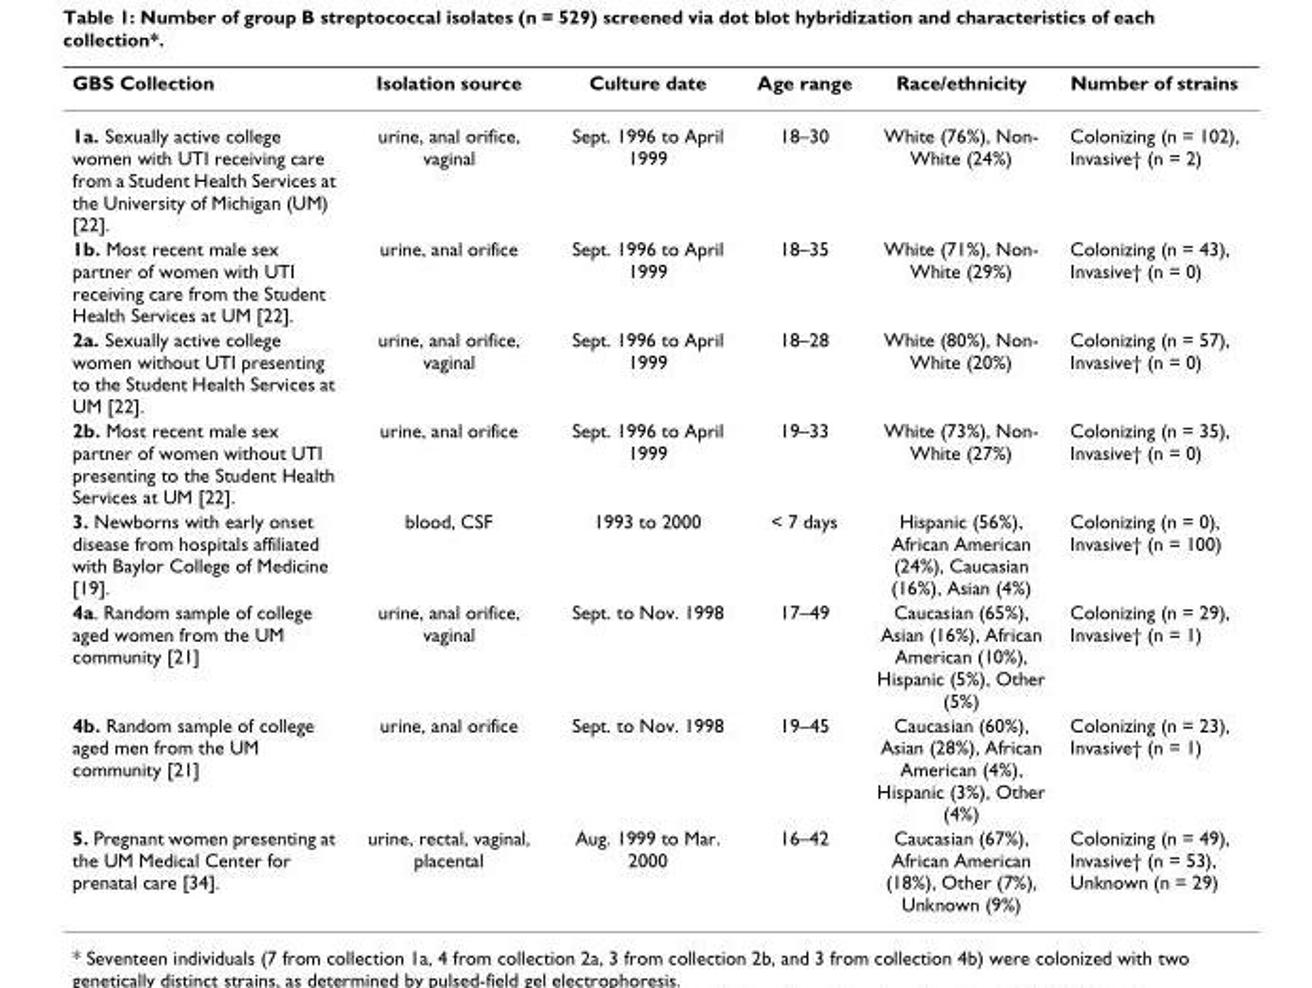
<table><thead><tr><td>GBS Collection</td><td>Isolation source</td><td>Culture date</td><td>Age range</td><td>Race/ethnicity</td><td>Number of strains</td></tr></thead><tbody><tr><td>1a. Sexually active college women with UTI receiving care from a Student Health Services at the University of Michigan (UM) [22].</td><td>urine, anal orifice, vaginal</td><td>Sept. 1996 to April 1999</td><td>18–30</td><td>White (76%), Non- White (24%)</td><td>Colonizing (n = 102), Invasive† (n = 2)</td></tr><tr><td>1b. Most recent male sex partner of women with UTI receiving care from the Student Health Services at UM [22].</td><td>urine, anal orifice</td><td>Sept. 1996 to April 1999</td><td>18–35</td><td>White (71%), Non- White (29%)</td><td>Colonizing (n = 43), Invasive† (n = 0)</td></tr><tr><td>2a. Sexually active college women without UTI presenting to the Student Health Services at UM [22].</td><td>urine, anal orifice, vaginal</td><td>Sept. 1996 to April 1999</td><td>18–28</td><td>White (80%), Non- White (20%)</td><td>Colonizing (n = 57), Invasive† (n = 0)</td></tr><tr><td>2b. Most recent male sex partner of women without UTI presenting to the Student Health Services at UM [22].</td><td>urine, anal orifice</td><td>Sept. 1996 to April 1999</td><td>19–33</td><td>White (73%), Non- White (27%)</td><td>Colonizing (n = 35), Invasive† (n = 0)</td></tr><tr><td>3. Newborns with early onset disease from hospitals affiliated with Baylor College of Medicine [19].</td><td>blood, CSF</td><td>1993 to 2000</td><td>&lt; 7 days</td><td>Hispanic (56%), African American (24%), Caucasian (16%), Asian (4%)</td><td>Colonizing (n = 0), Invasive† (n = 100)</td></tr><tr><td>4a. Random sample of college aged women from the UM community [21]</td><td>urine, anal orifice, vaginal</td><td>Sept. to Nov. 1998</td><td>17–49</td><td>Caucasian (65%), Asian (16%), African American (10%), Hispanic (5%), Other (5%)</td><td>Colonizing (n = 29), Invasive† (n = 1)</td></tr><tr><td>4b. Random sample of college aged men from the UM community [21]</td><td>urine, anal orifice</td><td>Sept. to Nov. 1998</td><td>19–45</td><td>Caucasian (60%), Asian (28%), African American (4%), Hispanic (3%), Other (4%)</td><td>Colonizing (n = 23), Invasive† (n = 1)</td></tr><tr><td>5. Pregnant women presenting at the UM Medical Center for prenatal care [34].</td><td>urine, rectal, vaginal, placental</td><td>Aug. 1999 to Mar. 2000</td><td>16–42</td><td>Caucasian (67%), African American (18%), Other (7%), Unknown (9%)</td><td>Colonizing (n = 49), Invasive† (n = 53), Unknown (n = 29)</td></tr></tbody></table>